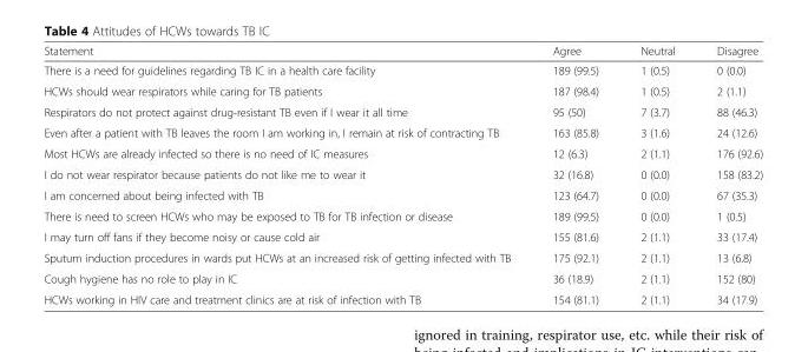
<table><thead><tr><td>Statement</td><td>Agree</td><td>Neutral</td><td>Disagree</td></tr></thead><tbody><tr><td>There is a need for guidelines regarding TB IC in a health care facility</td><td>189 (99.5)</td><td>1 (0.5)</td><td>0 (0.0)</td></tr><tr><td>HCWs should wear respirators while caring for TB patients</td><td>187 (98.4)</td><td>1 (0.5)</td><td>2 (1.1)</td></tr><tr><td>Respirators do not protect against drug-resistant TB even if I wear it all time</td><td>95 (50)</td><td>7 (3.7)</td><td>88 (46.3)</td></tr><tr><td>Even after a patient with TB leaves the room I am working in, I remain at risk of contracting TB</td><td>163 (85.8)</td><td>3 (1.6)</td><td>24 (12.6)</td></tr><tr><td>Most HCWs are already infected so there is no need of IC measures</td><td>12 (6.3)</td><td>2 (1.1)</td><td>176 (92.6)</td></tr><tr><td>I do not wear respirator because patients do not like me to wear it</td><td>32 (16.8)</td><td>0 (0.0)</td><td>158 (83.2)</td></tr><tr><td>I am concerned about being infected with TB</td><td>123 (64.7)</td><td>0 (0.0)</td><td>67 (35.3)</td></tr><tr><td>There is need to screen HCWs who may be exposed to TB for TB infection or disease</td><td>189 (99.5)</td><td>0 (0.0)</td><td>1 (0.5)</td></tr><tr><td>I may turn off fans if they become noisy or cause cold air</td><td>155 (81.6)</td><td>2 (1.1)</td><td>33 (17.4)</td></tr><tr><td>Sputum induction procedures in wards put HCWs at an increased risk of getting infected with TB</td><td>175 (92.1)</td><td>2 (1.1)</td><td>13 (6.8)</td></tr><tr><td>Cough hygiene has no role to play in IC</td><td>36 (18.9)</td><td>2 (1.1)</td><td>152 (80)</td></tr><tr><td>HCWs working in HIV care and treatment clinics are at risk of infection with TB</td><td>154 (81.1)</td><td>2 (1.1)</td><td>34 (17.9)</td></tr></tbody></table>